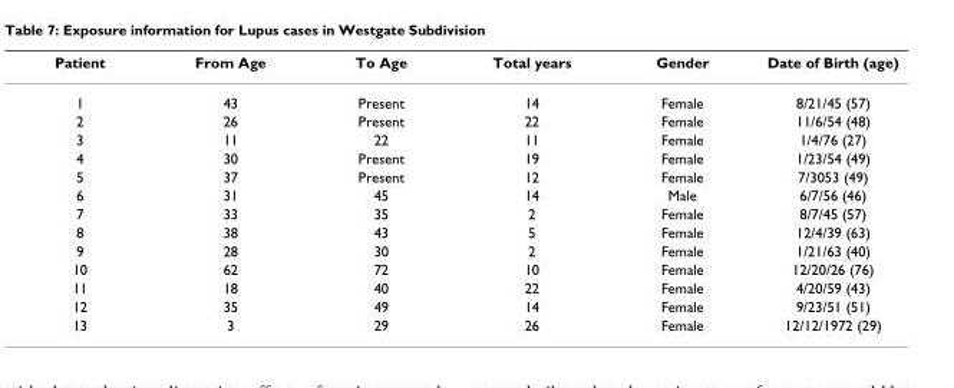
<table><thead><tr><td>Patient</td><td>From Age</td><td>To Age</td><td>Total years</td><td>Gender</td><td>Date of Birth (age)</td></tr></thead><tbody><tr><td>1</td><td>43</td><td>Present</td><td>14</td><td>Female</td><td>8/21/45 (57)</td></tr><tr><td>2</td><td>26</td><td>Present</td><td>22</td><td>Female</td><td>11/6/54 (48)</td></tr><tr><td>3</td><td>11</td><td>22</td><td>11</td><td>Female</td><td>1/4/76 (27)</td></tr><tr><td>4</td><td>30</td><td>Present</td><td>19</td><td>Female</td><td>1/23/54 (49)</td></tr><tr><td>5</td><td>37</td><td>Present</td><td>12</td><td>Female</td><td>7/3053 (49)</td></tr><tr><td>6</td><td>31</td><td>45</td><td>14</td><td>Male</td><td>6/7/56 (46)</td></tr><tr><td>7</td><td>33</td><td>35</td><td>2</td><td>Female</td><td>8/7/45 (57)</td></tr><tr><td>8</td><td>38</td><td>43</td><td>5</td><td>Female</td><td>12/4/39 (63)</td></tr><tr><td>9</td><td>28</td><td>30</td><td>2</td><td>Female</td><td>1/21/63 (40)</td></tr><tr><td>10</td><td>62</td><td>72</td><td>10</td><td>Female</td><td>12/20/26 (76)</td></tr><tr><td>11</td><td>18</td><td>40</td><td>22</td><td>Female</td><td>4/20/59 (43)</td></tr><tr><td>12</td><td>35</td><td>49</td><td>14</td><td>Female</td><td>9/23/51 (51)</td></tr><tr><td>13</td><td>3</td><td>29</td><td>26</td><td>Female</td><td>12/12/1972 (29)</td></tr></tbody></table>